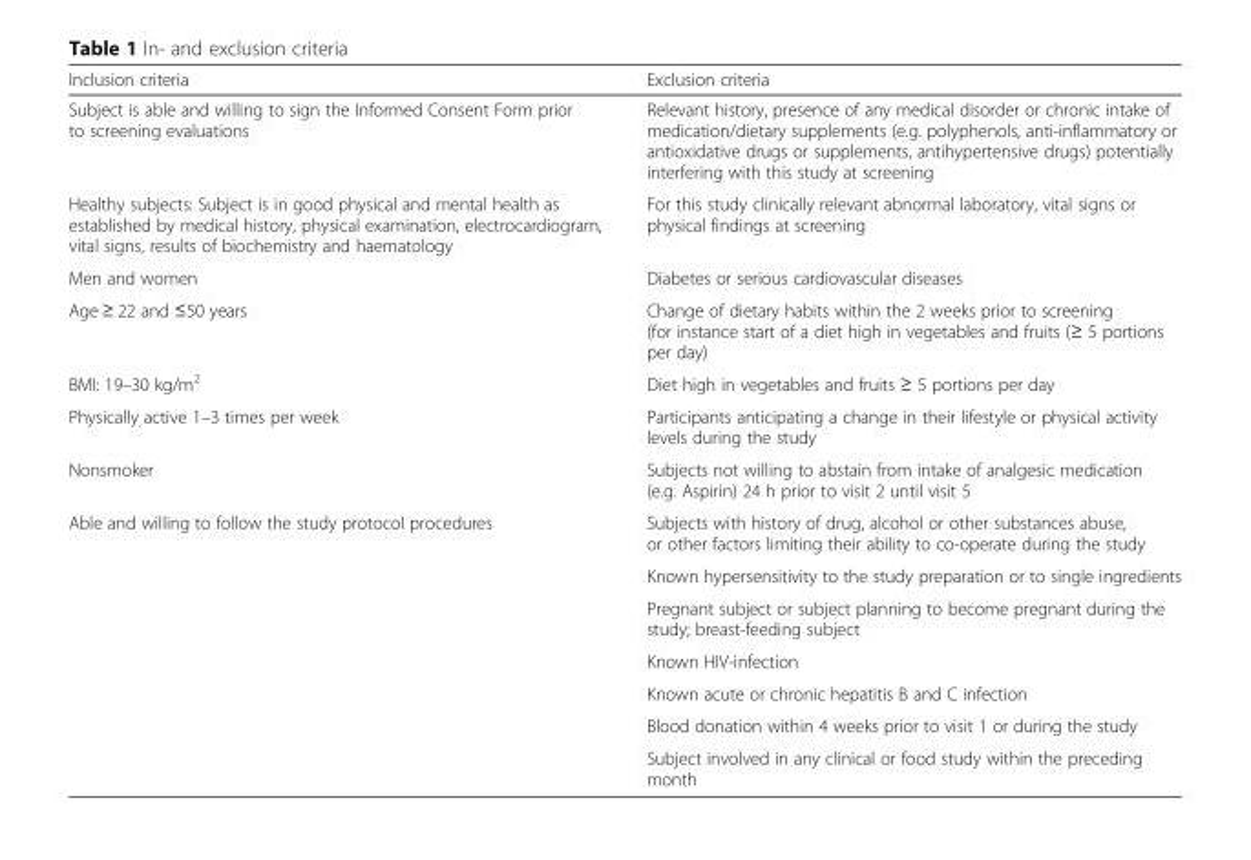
<table><thead><tr><td>Inclusion criteria</td><td>Exclusion criteria</td></tr></thead><tbody><tr><td>Subject is able and willing to sign the Informed Consent Form prior to screening evaluations</td><td>Relevant history, presence of any medical disorder or chronic intake of medication/dietary supplements (e.g. polyphenols, anti-inflammatory or antioxidative drugs or supplements, antihypertensive drugs) potentially interfering with this study at screening</td></tr><tr><td>Healthy subjects: Subject is in good physical and mental health as established by medical history, physical examination, electrocardiogram, vital signs, results of biochemistry and haematology</td><td>For this study clinically relevant abnormal laboratory, vital signs or physical findings at screening</td></tr><tr><td>Men and women</td><td>Diabetes or serious cardiovascular diseases</td></tr><tr><td>Age ≥ 22 and ≤50 years</td><td>Change of dietary habits within the 2 weeks prior to screening (for instance start of a diet high in vegetables and fruits (≥ 5 portions per day)</td></tr><tr><td>BMI: 19–30 kg/m<sup>2</sup></td><td>Diet high in vegetables and fruits ≥ 5 portions per day</td></tr><tr><td>Physically active 1–3 times per week</td><td>Participants anticipating a change in their lifestyle or physical activity levels during the study</td></tr><tr><td>Nonsmoker</td><td>Subjects not willing to abstain from intake of analgesic medication (e.g. Aspirin) 24 h prior to visit 2 until visit 5</td></tr><tr><td rowspan="7">Able and willing to follow the study protocol procedures</td><td>Subjects with history of drug, alcohol or other substances abuse, or other factors limiting their ability to co-operate during the study</td></tr><tr><td>Known hypersensitivity to the study preparation or to single ingredients</td></tr><tr><td>Pregnant subject or subject planning to become pregnant during the study; breast-feeding subject</td></tr><tr><td>Known HIV-infection</td></tr><tr><td>Known acute or chronic hepatitis B and C infection</td></tr><tr><td>Blood donation within 4 weeks prior to visit 1 or during the study</td></tr><tr><td>Subject involved in any clinical or food study within the preceding month</td></tr></tbody></table>